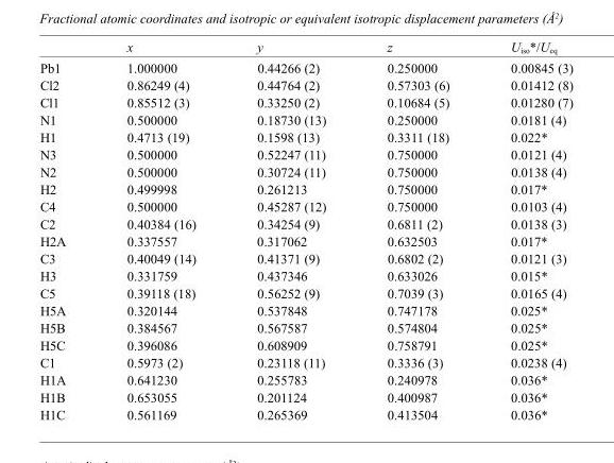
<table><thead><tr><td></td><td>x</td><td>y</td><td>z</td><td>U<sub>iso</sub>*/U<sub>eq</sub></td></tr></thead><tbody><tr><td>Pb1</td><td>1.000000</td><td>0.44266 (2)</td><td>0.250000</td><td>0.00845 (3)</td></tr><tr><td>Cl2</td><td>0.86249 (4)</td><td>0.44764 (2)</td><td>0.57303 (6)</td><td>0.01412 (8)</td></tr><tr><td>Cl1</td><td>0.85512 (3)</td><td>0.33250 (2)</td><td>0.10684 (5)</td><td>0.01280 (7)</td></tr><tr><td>N1</td><td>0.500000</td><td>0.18730 (13)</td><td>0.250000</td><td>0.0181 (4)</td></tr><tr><td>H1</td><td>0.4713 (19)</td><td>0.1598 (13)</td><td>0.3311 (18)</td><td>0.022*</td></tr><tr><td>N3</td><td>0.500000</td><td>0.52247 (11)</td><td>0.750000</td><td>0.0121 (4)</td></tr><tr><td>N2</td><td>0.500000</td><td>0.30724 (11)</td><td>0.750000</td><td>0.0138 (4)</td></tr><tr><td>H2</td><td>0.499998</td><td>0.261213</td><td>0.750000</td><td>0.017*</td></tr><tr><td>C4</td><td>0.500000</td><td>0.45287 (12)</td><td>0.750000</td><td>0.0103 (4)</td></tr><tr><td>C2</td><td>0.40384 (16)</td><td>0.34254 (9)</td><td>0.6811 (2)</td><td>0.0138 (3)</td></tr><tr><td>H2A</td><td>0.337557</td><td>0.317062</td><td>0.632503</td><td>0.017*</td></tr><tr><td>C3</td><td>0.40049 (14)</td><td>0.41371 (9)</td><td>0.6802 (2)</td><td>0.0121 (3)</td></tr><tr><td>H3</td><td>0.331759</td><td>0.437346</td><td>0.633026</td><td>0.015*</td></tr><tr><td>C5</td><td>0.39118 (18)</td><td>0.56252 (9)</td><td>0.7039 (3)</td><td>0.0165 (4)</td></tr><tr><td>H5A</td><td>0.320144</td><td>0.537848</td><td>0.747178</td><td>0.025*</td></tr><tr><td>H5B</td><td>0.384567</td><td>0.567587</td><td>0.574804</td><td>0.025*</td></tr><tr><td>H5C</td><td>0.396086</td><td>0.608909</td><td>0.758791</td><td>0.025*</td></tr><tr><td>C1</td><td>0.5973 (2)</td><td>0.23118 (11)</td><td>0.3336 (3)</td><td>0.0238 (4)</td></tr><tr><td>H1A</td><td>0.641230</td><td>0.255783</td><td>0.240978</td><td>0.036*</td></tr><tr><td>H1B</td><td>0.653055</td><td>0.201124</td><td>0.400987</td><td>0.036*</td></tr><tr><td>H1C</td><td>0.561169</td><td>0.265369</td><td>0.413504</td><td>0.036*</td></tr></tbody></table>